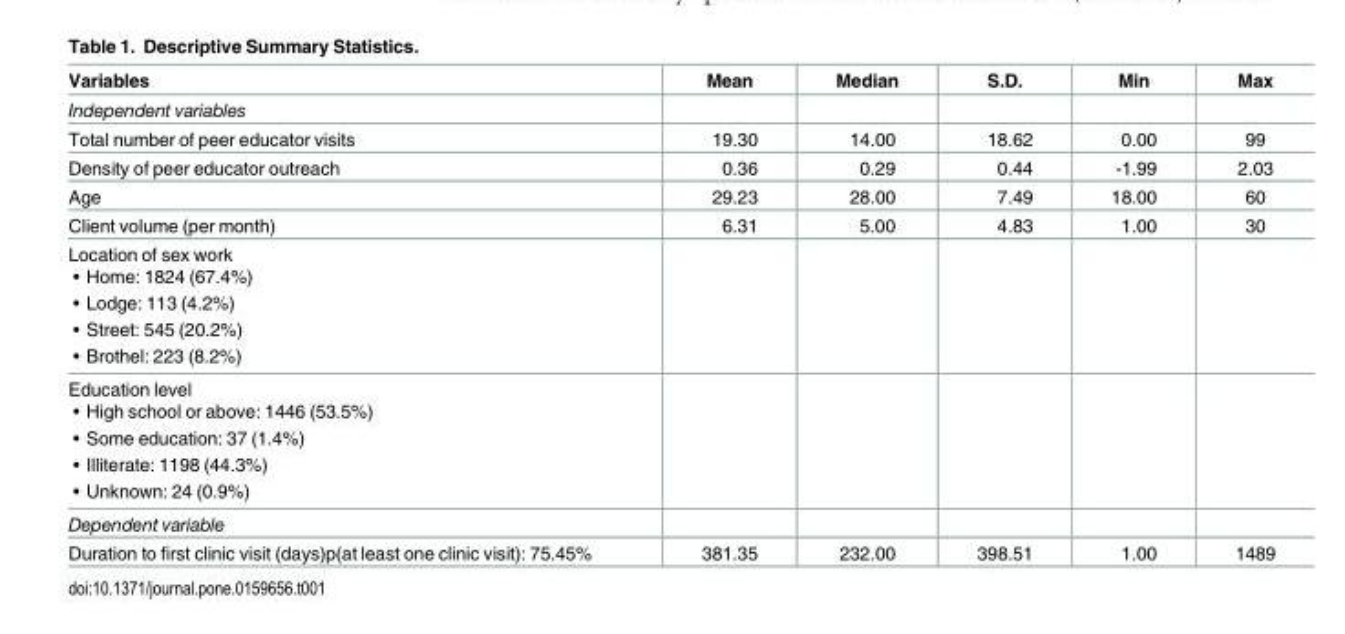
<table><thead><tr><td>Variables</td><td>Mean</td><td>Median</td><td>S.D.</td><td>Min</td><td>Max</td></tr></thead><tbody><tr><td colspan="6">Independent variables</td></tr><tr><td>Total number of peer educator visits</td><td>19.30</td><td>14.00</td><td>18.62</td><td>0.00</td><td>99</td></tr><tr><td>Density of peer educator outreach</td><td>0.36</td><td>0.29</td><td>0.44</td><td>-1.99</td><td>2.03</td></tr><tr><td>Age</td><td>29.23</td><td>28.00</td><td>7.49</td><td>18.00</td><td>60</td></tr><tr><td>Client volume (per month)</td><td>6.31</td><td>5.00</td><td>4.83</td><td>1.00</td><td>30</td></tr><tr><td colspan="6">Location of sex work • Home: 1824 (67.4%) • Lodge: 113 (4.2%) • Street: 545 (20.2%) • Brothel: 223 (8.2%)</td></tr><tr><td colspan="6">Education level • High school or above: 1446 (53.5%) • Some education: 37 (1.4%) • Illiterate: 1198 (44.3%) • Unknown: 24 (0.9%)</td></tr><tr><td colspan="6">Dependent variable</td></tr><tr><td>Duration to first clinic visit (days)p(at least one clinic visit): 75.45%</td><td>381.35</td><td>232.00</td><td>398.51</td><td>1.00</td><td>1489</td></tr></tbody></table>